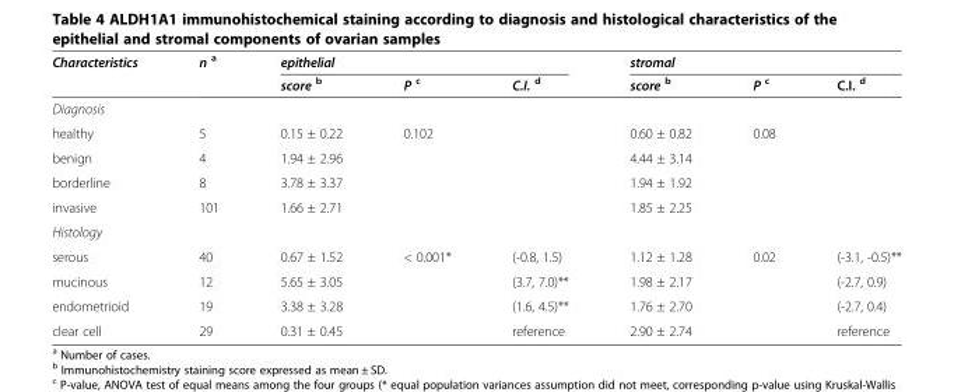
<table><thead><tr><td rowspan="2">Characteristics</td><td rowspan="2">n <sup>a</sup></td><td colspan="3">epithelial</td><td colspan="2">stromal</td><td rowspan="2">C.I. d</td></tr><tr><td>score <sup>b</sup></td><td>P <sup>c</sup></td><td>C.I. d</td><td>score <sup>b</sup></td><td>P <sup>c</sup></td></tr></thead><tbody><tr><td colspan="8">Diagnosis</td></tr><tr><td>healthy</td><td>5</td><td>0.15 ± 0.22</td><td>0.102</td><td></td><td>0.60 ± 0.82</td><td>0.08</td><td></td></tr><tr><td>benign</td><td>4</td><td>1.94 ± 2.96</td><td></td><td></td><td>4.44 ± 3.14</td><td></td><td></td></tr><tr><td>borderline</td><td>8</td><td>3.78 ± 3.37</td><td></td><td></td><td>1.94 ± 1.92</td><td></td><td></td></tr><tr><td>invasive</td><td>101</td><td>1.66 ± 2.71</td><td></td><td></td><td>1.85 ± 2.25</td><td></td><td></td></tr><tr><td colspan="8">Histology</td></tr><tr><td>serous</td><td>40</td><td>0.67 ± 1.52</td><td>&lt; 0.001*</td><td>(-0.8, 1.5)</td><td>1.12 ± 1.28</td><td>0.02</td><td>(-3.1, -0.5)**</td></tr><tr><td>mucinous</td><td>12</td><td>5.65 ± 3.05</td><td></td><td>(3.7, 7.0)**</td><td>1.98 ± 2.17</td><td></td><td>(-2.7, 0.9)</td></tr><tr><td>endometrioid</td><td>19</td><td>3.38 ± 3.28</td><td></td><td>(1.6, 4.5)**</td><td>1.76 ± 2.70</td><td></td><td>(-2.7, 0.4)</td></tr><tr><td>clear cell</td><td>29</td><td>0.31 ± 0.45</td><td></td><td>reference</td><td>2.90 ± 2.74</td><td></td><td>reference</td></tr></tbody></table>